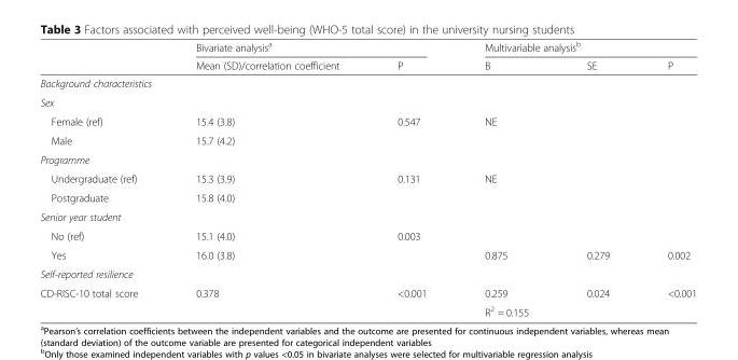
<table><thead><tr><td rowspan="2"></td><td colspan="2">Bivariate analysis<sup>a</sup></td><td colspan="3">Multivariable analysis<sup>b</sup></td></tr><tr><td>Mean (SD)/correlation coefficient</td><td>P</td><td>B</td><td>SE</td><td>P</td></tr></thead><tbody><tr><td colspan="6">Background characteristics</td></tr><tr><td colspan="6">Sex</td></tr><tr><td>Female (ref)</td><td>15.4 (3.8)</td><td>0.547</td><td>NE</td><td></td><td></td></tr><tr><td>Male</td><td>15.7 (4.2)</td><td></td><td></td><td></td><td></td></tr><tr><td colspan="6">Programme</td></tr><tr><td>Undergraduate (ref)</td><td>15.3 (3.9)</td><td>0.131</td><td>NE</td><td></td><td></td></tr><tr><td>Postgraduate</td><td>15.8 (4.0)</td><td></td><td></td><td></td><td></td></tr><tr><td colspan="6">Senior year student</td></tr><tr><td>No (ref)</td><td>15.1 (4.0)</td><td>0.003</td><td></td><td></td><td></td></tr><tr><td>Yes</td><td>16.0 (3.8)</td><td></td><td>0.875</td><td>0.279</td><td>0.002</td></tr><tr><td colspan="6">Self-reported resilience</td></tr><tr><td rowspan="2">CD-RISC-10 total score</td><td>0.378</td><td>&lt;0.001</td><td>0.259</td><td>0.024</td><td>&lt;0.001</td></tr><tr><td></td><td></td><td>R<sup>2</sup> = 0.155</td><td></td><td></td></tr></tbody></table>